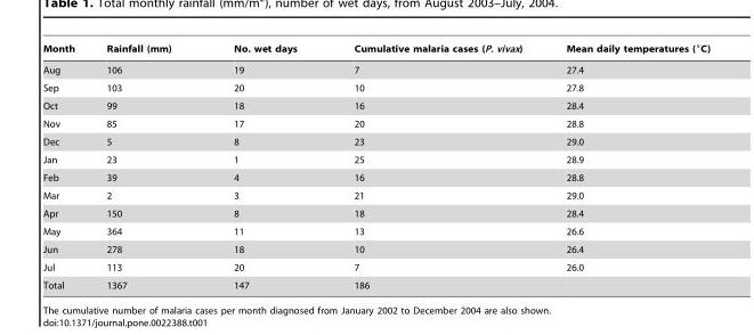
<table><thead><tr><td>Month</td><td>Rainfall (mm)</td><td>No. wet days</td><td>Cumulative malaria cases (P. vivax)</td><td>Mean daily temperatures (°C)</td></tr></thead><tbody><tr><td>Aug</td><td>106</td><td>19</td><td>7</td><td>27.4</td></tr><tr><td>Sep</td><td>103</td><td>20</td><td>10</td><td>27.8</td></tr><tr><td>Oct</td><td>99</td><td>18</td><td>16</td><td>28.4</td></tr><tr><td>Nov</td><td>85</td><td>17</td><td>20</td><td>28.8</td></tr><tr><td>Dec</td><td>5</td><td>8</td><td>23</td><td>29.0</td></tr><tr><td>Jan</td><td>23</td><td>1</td><td>25</td><td>28.9</td></tr><tr><td>Feb</td><td>39</td><td>4</td><td>16</td><td>28.8</td></tr><tr><td>Mar</td><td>2</td><td>3</td><td>21</td><td>29.0</td></tr><tr><td>Apr</td><td>150</td><td>8</td><td>18</td><td>28.4</td></tr><tr><td>May</td><td>364</td><td>11</td><td>13</td><td>26.6</td></tr><tr><td>Jun</td><td>278</td><td>18</td><td>10</td><td>26.4</td></tr><tr><td>Jul</td><td>113</td><td>20</td><td>7</td><td>26.0</td></tr><tr><td>Total</td><td>1367</td><td>147</td><td>186</td><td></td></tr></tbody></table>